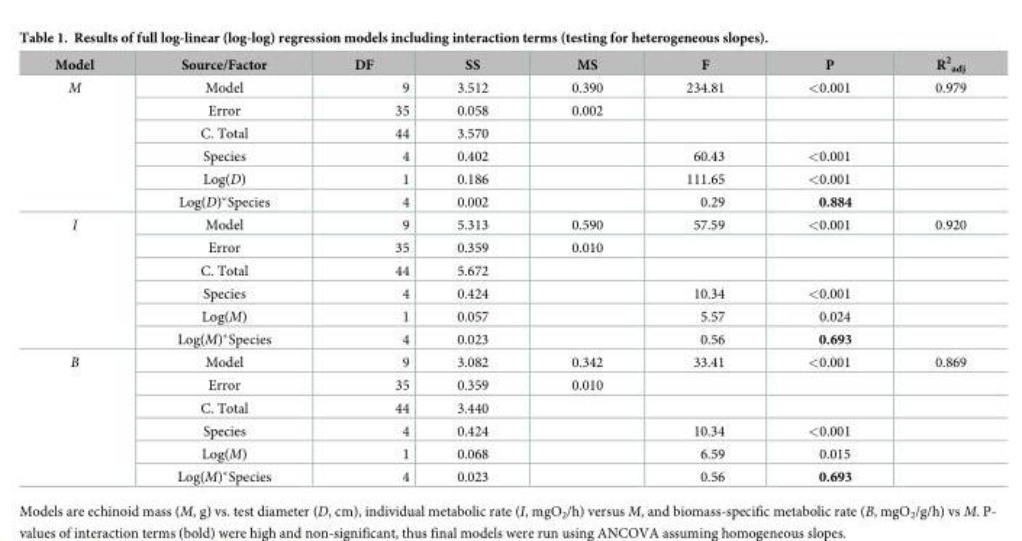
<table><thead><tr><td>Model</td><td>Source/Factor</td><td>DF</td><td>SS</td><td>MS</td><td>F</td><td>P</td><td>R<sup>2</sup> <sub>adj</sub></td></tr></thead><tbody><tr><td rowspan="6">M</td><td>Model</td><td>9</td><td>3.512</td><td>0.390</td><td>234.81</td><td>&lt;0.001</td><td>0.979</td></tr><tr><td>Error</td><td>35</td><td>0.058</td><td>0.002</td><td></td><td></td><td></td></tr><tr><td>C. Total</td><td>44</td><td>3.570</td><td></td><td></td><td></td><td></td></tr><tr><td>Species</td><td>4</td><td>0.402</td><td></td><td>60.43</td><td>&lt;0.001</td><td></td></tr><tr><td>Log(D)</td><td>1</td><td>0.186</td><td></td><td>111.65</td><td>&lt;0.001</td><td></td></tr><tr><td>Log(D)*Species</td><td>4</td><td>0.002</td><td></td><td>0.29</td><td>0.884</td><td></td></tr><tr><td rowspan="6">I</td><td>Model</td><td>9</td><td>5.313</td><td>0.590</td><td>57.59</td><td>&lt;0.001</td><td>0.920</td></tr><tr><td>Error</td><td>35</td><td>0.359</td><td>0.010</td><td></td><td></td><td></td></tr><tr><td>C. Total</td><td>44</td><td>5.672</td><td></td><td></td><td></td><td></td></tr><tr><td>Species</td><td>4</td><td>0.424</td><td></td><td>10.34</td><td>&lt;0.001</td><td></td></tr><tr><td>Log(M)</td><td>1</td><td>0.057</td><td></td><td>5.57</td><td>0.024</td><td></td></tr><tr><td>Log(M)*Species</td><td>4</td><td>0.023</td><td></td><td>0.56</td><td>0.693</td><td></td></tr><tr><td rowspan="6">B</td><td>Model</td><td>9</td><td>3.082</td><td>0.342</td><td>33.41</td><td>&lt;0.001</td><td>0.869</td></tr><tr><td>Error</td><td>35</td><td>0.359</td><td>0.010</td><td></td><td></td><td></td></tr><tr><td>C. Total</td><td>44</td><td>3.440</td><td></td><td></td><td></td><td></td></tr><tr><td>Species</td><td>4</td><td>0.424</td><td></td><td>10.34</td><td>&lt;0.001</td><td></td></tr><tr><td>Log(M)</td><td>1</td><td>0.068</td><td></td><td>6.59</td><td>0.015</td><td></td></tr><tr><td>Log(M)*Species</td><td>4</td><td>0.023</td><td></td><td>0.56</td><td>0.693</td><td></td></tr></tbody></table>